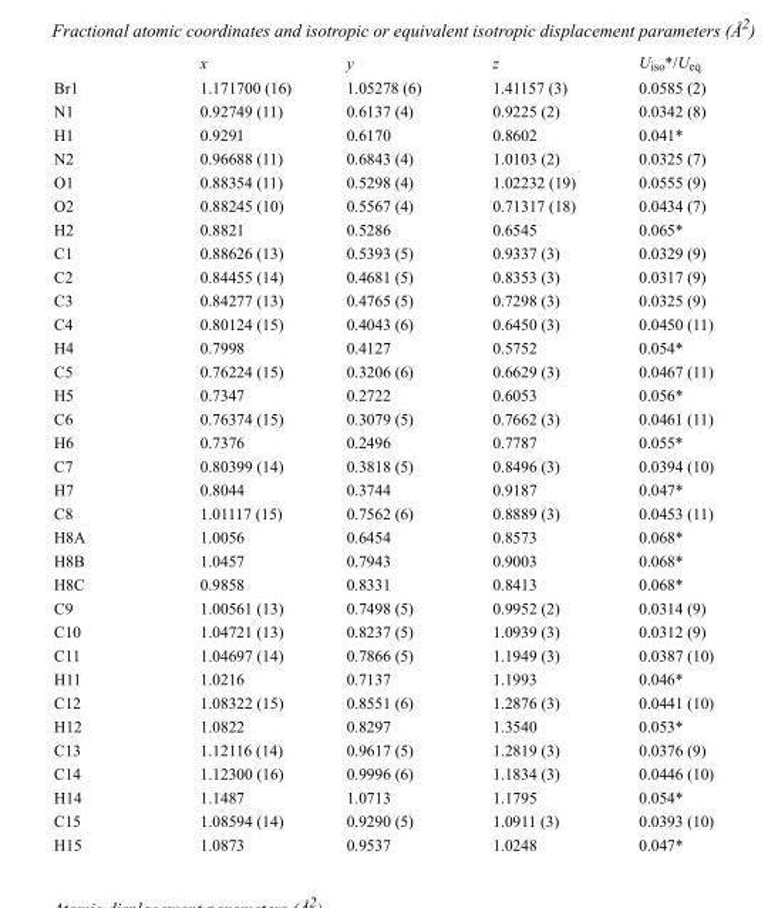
<table><thead><tr><td></td><td>x</td><td>y</td><td>z</td><td>U<sub>iso</sub>*/U<sub>eq</sub></td></tr></thead><tbody><tr><td>Br1</td><td>1.171700 (16)</td><td>1.05278 (6)</td><td>1.41157 (3)</td><td>0.0585 (2)</td></tr><tr><td>N1</td><td>0.92749 (11)</td><td>0.6137 (4)</td><td>0.9225 (2)</td><td>0.0342 (8)</td></tr><tr><td>H1</td><td>0.9291</td><td>0.6170</td><td>0.8602</td><td>0.041*</td></tr><tr><td>N2</td><td>0.96688 (11)</td><td>0.6843 (4)</td><td>1.0103 (2)</td><td>0.0325 (7)</td></tr><tr><td>O1</td><td>0.88354 (11)</td><td>0.5298 (4)</td><td>1.02232 (19)</td><td>0.0555 (9)</td></tr><tr><td>O2</td><td>0.88245 (10)</td><td>0.5567 (4)</td><td>0.71317 (18)</td><td>0.0434 (7)</td></tr><tr><td>H2</td><td>0.8821</td><td>0.5286</td><td>0.6545</td><td>0.065*</td></tr><tr><td>C1</td><td>0.88626 (13)</td><td>0.5393 (5)</td><td>0.9337 (3)</td><td>0.0329 (9)</td></tr><tr><td>C2</td><td>0.84455 (14)</td><td>0.4681 (5)</td><td>0.8353 (3)</td><td>0.0317 (9)</td></tr><tr><td>C3</td><td>0.84277 (13)</td><td>0.4765 (5)</td><td>0.7298 (3)</td><td>0.0325 (9)</td></tr><tr><td>C4</td><td>0.80124 (15)</td><td>0.4043 (6)</td><td>0.6450 (3)</td><td>0.0450 (11)</td></tr><tr><td>H4</td><td>0.7998</td><td>0.4127</td><td>0.5752</td><td>0.054*</td></tr><tr><td>C5</td><td>0.76224 (15)</td><td>0.3206 (6)</td><td>0.6629 (3)</td><td>0.0467 (11)</td></tr><tr><td>H5</td><td>0.7347</td><td>0.2722</td><td>0.6053</td><td>0.056*</td></tr><tr><td>C6</td><td>0.76374 (15)</td><td>0.3079 (5)</td><td>0.7662 (3)</td><td>0.0461 (11)</td></tr><tr><td>H6</td><td>0.7376</td><td>0.2496</td><td>0.7787</td><td>0.055*</td></tr><tr><td>C7</td><td>0.80399 (14)</td><td>0.3818 (5)</td><td>0.8496 (3)</td><td>0.0394 (10)</td></tr><tr><td>H7</td><td>0.8044</td><td>0.3744</td><td>0.9187</td><td>0.047*</td></tr><tr><td>C8</td><td>1.01117 (15)</td><td>0.7562 (6)</td><td>0.8889 (3)</td><td>0.0453 (11)</td></tr><tr><td>H8A</td><td>1.0056</td><td>0.6454</td><td>0.8573</td><td>0.068*</td></tr><tr><td>H8B</td><td>1.0457</td><td>0.7943</td><td>0.9003</td><td>0.068*</td></tr><tr><td>H8C</td><td>0.9858</td><td>0.8331</td><td>0.8413</td><td>0.068*</td></tr><tr><td>C9</td><td>1.00561 (13)</td><td>0.7498 (5)</td><td>0.9952 (2)</td><td>0.0314 (9)</td></tr><tr><td>C10</td><td>1.04721 (13)</td><td>0.8237 (5)</td><td>1.0939 (3)</td><td>0.0312 (9)</td></tr><tr><td>C11</td><td>1.04697 (14)</td><td>0.7866 (5)</td><td>1.1949 (3)</td><td>0.0387 (10)</td></tr><tr><td>H11</td><td>1.0216</td><td>0.7137</td><td>1.1993</td><td>0.046*</td></tr><tr><td>C12</td><td>1.08322 (15)</td><td>0.8551 (6)</td><td>1.2876 (3)</td><td>0.0441 (10)</td></tr><tr><td>H12</td><td>1.0822</td><td>0.8297</td><td>1.3540</td><td>0.053*</td></tr><tr><td>C13</td><td>1.12116 (14)</td><td>0.9617 (5)</td><td>1.2819 (3)</td><td>0.0376 (9)</td></tr><tr><td>C14</td><td>1.12300 (16)</td><td>0.9996 (6)</td><td>1.1834 (3)</td><td>0.0446 (10)</td></tr><tr><td>H14</td><td>1.1487</td><td>1.0713</td><td>1.1795</td><td>0.054*</td></tr><tr><td>C15</td><td>1.08594 (14)</td><td>0.9290 (5)</td><td>1.0911 (3)</td><td>0.0393 (10)</td></tr><tr><td>H15</td><td>1.0873</td><td>0.9537</td><td>1.0248</td><td>0.047*</td></tr></tbody></table>